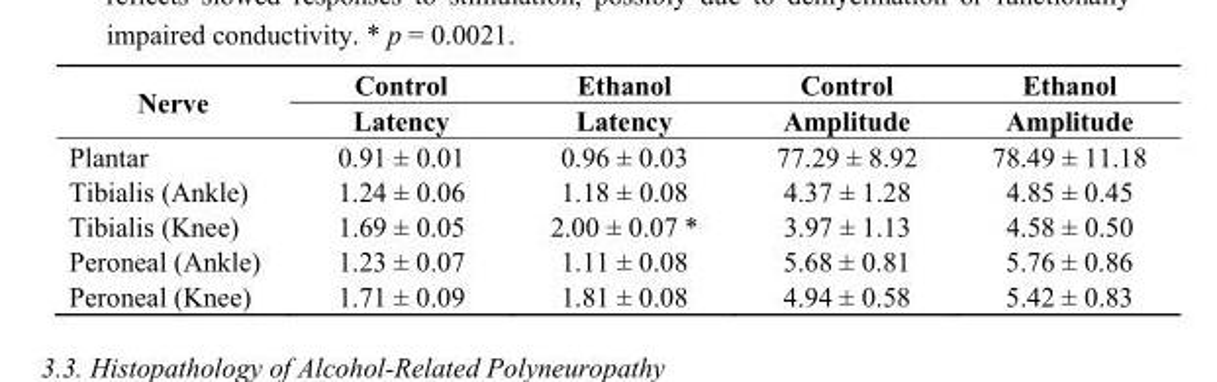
<table><thead><tr><td rowspan="2">Nerve</td><td rowspan="2">Control Latency</td><td rowspan="2">Ethanol Latency</td><td rowspan="2">Control Amplitude</td><td rowspan="2">Ethanol Amplitude</td></tr><tr></tr></thead><tbody><tr><td>Plantar</td><td>0.91 ± 0.01</td><td>0.96 ± 0.03</td><td>77.29 ± 8.92</td><td>78.49 ± 11.18</td></tr><tr><td>Tibialis (Ankle)</td><td>1.24 ± 0.06</td><td>1.18 ± 0.08</td><td>4.37 ± 1.28</td><td>4.85 ± 0.45</td></tr><tr><td>Tibialis (Knee)</td><td>1.69 ± 0.05</td><td>2.00 ± 0.07 *</td><td>3.97 ± 1.13</td><td>4.58 ± 0.50</td></tr><tr><td>Peroneal (Ankle)</td><td>1.23 ± 0.07</td><td>1.11 ± 0.08</td><td>5.68 ± 0.81</td><td>5.76 ± 0.86</td></tr><tr><td>Peroneal (Knee)</td><td>1.71 ± 0.09</td><td>1.81 ± 0.08</td><td>4.94 ± 0.58</td><td>5.42 ± 0.83</td></tr></tbody></table>